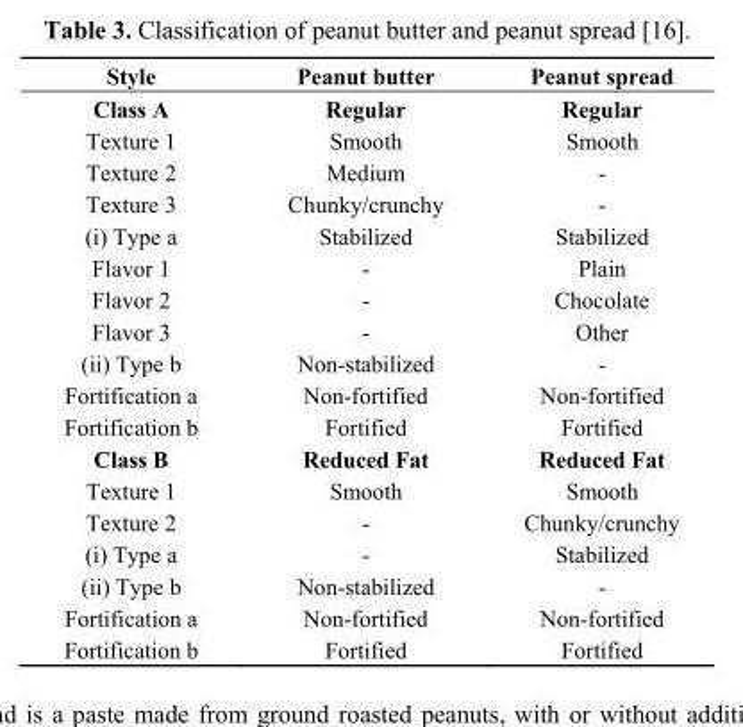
<table><thead><tr><td>Style</td><td>Peanut butter</td><td>Peanut spread</td></tr></thead><tbody><tr><td>Class A</td><td>Regular</td><td>Regular</td></tr><tr><td>Texture 1</td><td>Smooth</td><td>Smooth</td></tr><tr><td>Texture 2</td><td>Medium</td><td>-</td></tr><tr><td>Texture 3</td><td>Chunky/crunchy</td><td>-</td></tr><tr><td>(i) Type a</td><td>Stabilized</td><td>Stabilized</td></tr><tr><td>Flavor 1</td><td>-</td><td>Plain</td></tr><tr><td>Flavor 2</td><td>-</td><td>Chocolate</td></tr><tr><td>Flavor 3</td><td>-</td><td>Other</td></tr><tr><td>(ii) Type b</td><td>Non-stabilized</td><td>-</td></tr><tr><td>Fortification a</td><td>Non-fortified</td><td>Non-fortified</td></tr><tr><td>Fortification b</td><td>Fortified</td><td>Fortified</td></tr><tr><td>Class B</td><td>Reduced Fat</td><td>Reduced Fat</td></tr><tr><td>Texture 1</td><td>Smooth</td><td>Smooth</td></tr><tr><td>Texture 2</td><td>-</td><td>Chunky/crunchy</td></tr><tr><td>(i) Type a</td><td>-</td><td>Stabilized</td></tr><tr><td>(ii) Type b</td><td>Non-stabilized</td><td>-</td></tr><tr><td>Fortification a</td><td>Non-fortified</td><td>Non-fortified</td></tr><tr><td>Fortification b</td><td>Fortified</td><td>Fortified</td></tr></tbody></table>